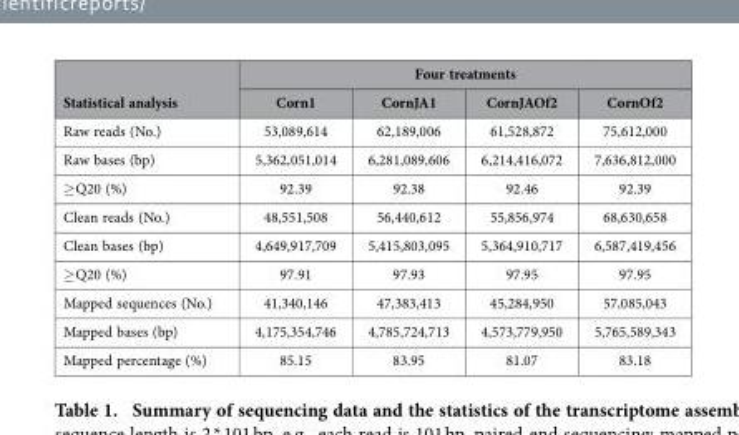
<table><thead><tr><td rowspan="2">Statistical analysis</td><td colspan="4">Four treatments</td></tr><tr><td>Corn1</td><td>CornJA1</td><td>CornJAOf2</td><td>CornOf2</td></tr></thead><tbody><tr><td>Raw reads (No.)</td><td>53,089,614</td><td>62,189,006</td><td>61,528,872</td><td>75,612,000</td></tr><tr><td>Raw bases (bp)</td><td>5,362,051,014</td><td>6,281,089,606</td><td>6,214,416,072</td><td>7,636,812,000</td></tr><tr><td>≥ Q20 (%)</td><td>92.39</td><td>92.38</td><td>92.46</td><td>92.39</td></tr><tr><td>Clean reads (No.)</td><td>48,551,508</td><td>56,440,612</td><td>55,856,974</td><td>68,630,658</td></tr><tr><td>Clean bases (bp)</td><td>4,649,917,709</td><td>5,415,803,095</td><td>5,364,910,717</td><td>6,587,419,456</td></tr><tr><td>≥ Q20 (%)</td><td>97.91</td><td>97.93</td><td>97.95</td><td>97.95</td></tr><tr><td>Mapped sequences (No.)</td><td>41,340,146</td><td>47,383,413</td><td>45,284,950</td><td>57,085,043</td></tr><tr><td>Mapped bases (bp)</td><td>4,175,354,746</td><td>4,785,724,713</td><td>4,573,779,950</td><td>5,765,589,343</td></tr><tr><td>Mapped percentage (%)</td><td>85.15</td><td>83.95</td><td>81.07</td><td>83.18</td></tr></tbody></table>